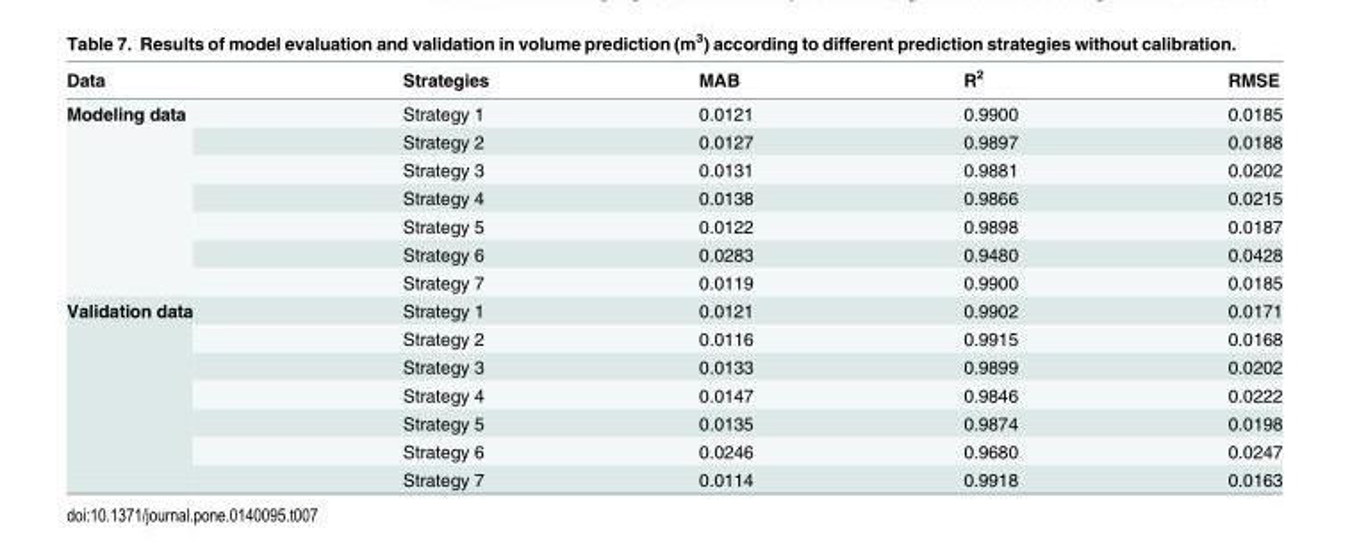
<table><thead><tr><td>Data</td><td>Strategies</td><td>MAB</td><td>R<sup>2</sup></td><td>RMSE</td></tr></thead><tbody><tr><td rowspan="7">Modeling data</td><td>Strategy 1</td><td>0.0121</td><td>0.9900</td><td>0.0185</td></tr><tr><td>Strategy 2</td><td>0.0127</td><td>0.9897</td><td>0.0188</td></tr><tr><td>Strategy 3</td><td>0.0131</td><td>0.9881</td><td>0.0202</td></tr><tr><td>Strategy 4</td><td>0.0138</td><td>0.9866</td><td>0.0215</td></tr><tr><td>Strategy 5</td><td>0.0122</td><td>0.9898</td><td>0.0187</td></tr><tr><td>Strategy 6</td><td>0.0283</td><td>0.9480</td><td>0.0428</td></tr><tr><td>Strategy 7</td><td>0.0119</td><td>0.9900</td><td>0.0185</td></tr><tr><td rowspan="7">Validation data</td><td>Strategy 1</td><td>0.0121</td><td>0.9902</td><td>0.0171</td></tr><tr><td>Strategy 2</td><td>0.0116</td><td>0.9915</td><td>0.0168</td></tr><tr><td>Strategy 3</td><td>0.0133</td><td>0.9899</td><td>0.0202</td></tr><tr><td>Strategy 4</td><td>0.0147</td><td>0.9846</td><td>0.0222</td></tr><tr><td>Strategy 5</td><td>0.0135</td><td>0.9874</td><td>0.0198</td></tr><tr><td>Strategy 6</td><td>0.0246</td><td>0.9680</td><td>0.0247</td></tr><tr><td>Strategy 7</td><td>0.0114</td><td>0.9918</td><td>0.0163</td></tr></tbody></table>